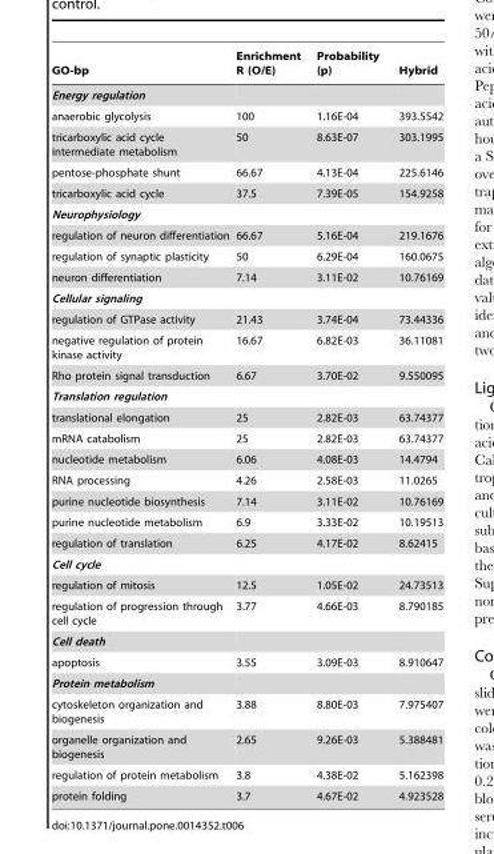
<table><thead><tr><td>GO-bp</td><td>Enrichment R (O/E)</td><td>Probability (p)</td><td>Hybrid</td></tr></thead><tbody><tr><td colspan="4">Energy regulation</td></tr><tr><td>anaerobic glycolysis</td><td>100</td><td>1.16E-04</td><td>393.5542</td></tr><tr><td>tricarboxylic acid cycle intermediate metabolism</td><td>50</td><td>8.63E-07</td><td>303.1995</td></tr><tr><td>pentose-phosphate shunt</td><td>66.67</td><td>4.13E-04</td><td>225.6146</td></tr><tr><td>tricarboxylic acid cycle</td><td>37.5</td><td>7.39E-05</td><td>154.9258</td></tr><tr><td colspan="4">Neurophysiology</td></tr><tr><td>regulation of neuron differentiation</td><td>66.67</td><td>5.16E-04</td><td>219.1676</td></tr><tr><td>regulation of synaptic plasticity</td><td>50</td><td>6.29E-04</td><td>160.0675</td></tr><tr><td>neuron differentiation</td><td>7.14</td><td>3.11E-02</td><td>10.76169</td></tr><tr><td colspan="4">Cellular signaling</td></tr><tr><td>regulation of GTPase activity</td><td>21.43</td><td>3.74E-04</td><td>73.44336</td></tr><tr><td>negative regulation of protein kinase activity</td><td>16.67</td><td>6.82E-03</td><td>36.11081</td></tr><tr><td>Rho protein signal transduction</td><td>6.67</td><td>3.70E-02</td><td>9.550095</td></tr><tr><td colspan="4">Translation regulation</td></tr><tr><td>translational elongation</td><td>25</td><td>2.82E-03</td><td>63.74377</td></tr><tr><td>mRNA catabolism</td><td>25</td><td>2.82E-03</td><td>63.74377</td></tr><tr><td>nucleotide metabolism</td><td>6.06</td><td>4.08E-03</td><td>14.4794</td></tr><tr><td>RNA processing</td><td>4.26</td><td>2.58E-03</td><td>11.0265</td></tr><tr><td>purine nucleotide biosynthesis</td><td>7.14</td><td>3.11E-02</td><td>10.76169</td></tr><tr><td>purine nucleotide metabolism</td><td>6.9</td><td>3.33E-02</td><td>10.19513</td></tr><tr><td>regulation of translation</td><td>6.25</td><td>4.17E-02</td><td>8.62415</td></tr><tr><td colspan="4">Cell cycle</td></tr><tr><td>regulation of mitosis</td><td>12.5</td><td>1.05E-02</td><td>24.73513</td></tr><tr><td>regulation of progression through cell cycle</td><td>3.77</td><td>4.66E-03</td><td>8.790185</td></tr><tr><td colspan="4">Cell death</td></tr><tr><td>apoptosis</td><td>3.55</td><td>3.09E-03</td><td>8.910647</td></tr><tr><td colspan="4">Protein metabolism</td></tr><tr><td>cytoskeleton organization and biogenesis</td><td>3.88</td><td>8.80E-03</td><td>7.975407</td></tr><tr><td>organelle organization and biogenesis</td><td>2.65</td><td>9.26E-03</td><td>5.388481</td></tr><tr><td>regulation of protein metabolism</td><td>3.8</td><td>4.38E-02</td><td>5.162398</td></tr><tr><td>protein folding</td><td>3.7</td><td>4.67E-02</td><td>4.923528</td></tr></tbody></table>